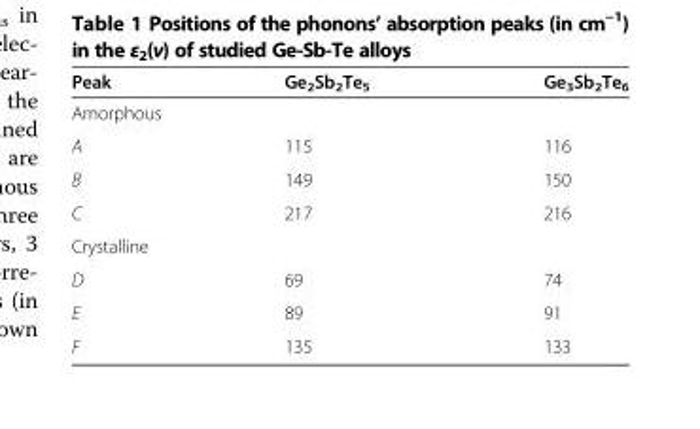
<table><thead><tr><td>Peak</td><td>Ge<sub>2</sub>Sb<sub>2</sub>Te<sub>5</sub></td><td>Ge<sub>3</sub>Sb<sub>2</sub>Te<sub>6</sub></td></tr></thead><tbody><tr><td colspan="3">Amorphous</td></tr><tr><td>A</td><td>115</td><td>116</td></tr><tr><td>B</td><td>149</td><td>150</td></tr><tr><td>C</td><td>217</td><td>216</td></tr><tr><td colspan="3">Crystalline</td></tr><tr><td>D</td><td>69</td><td>74</td></tr><tr><td>E</td><td>89</td><td>91</td></tr><tr><td>F</td><td>135</td><td>133</td></tr></tbody></table>